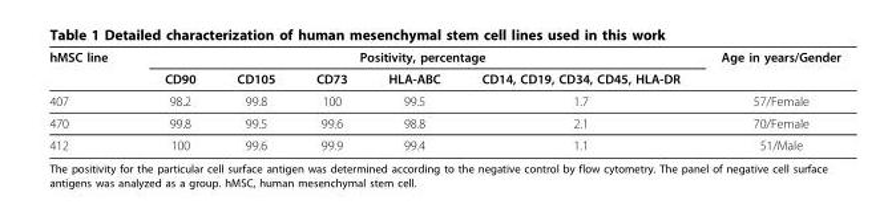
<table><thead><tr><td rowspan="2">hMSC line</td><td colspan="5">Positivity, percentage</td><td rowspan="2">Age in years/Gender</td></tr><tr><td>CD90</td><td>CD105</td><td>CD73</td><td>HLA-ABC</td><td>CD14, CD19, CD34, CD45, HLA-DR</td></tr></thead><tbody><tr><td>407</td><td>98.2</td><td>99.8</td><td>100</td><td>99.5</td><td>1.7</td><td>57/Female</td></tr><tr><td>470</td><td>99.8</td><td>99.5</td><td>99.6</td><td>98.8</td><td>2.1</td><td>70/Female</td></tr><tr><td>412</td><td>100</td><td>99.6</td><td>99.9</td><td>99.4</td><td>1.1</td><td>51/Male</td></tr></tbody></table>